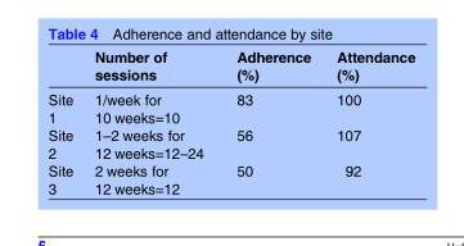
<table><thead><tr><td></td><td>Number of sessions</td><td>Adherence (%)</td><td>Attendance (%)</td></tr></thead><tbody><tr><td>Site 1</td><td>1/week for 10 weeks=10</td><td>83</td><td>100</td></tr><tr><td>Site 2</td><td>1–2 weeks for 12 weeks=12–24</td><td>56</td><td>107</td></tr><tr><td>Site 3</td><td>2 weeks for 12 weeks=12</td><td>50</td><td>92</td></tr></tbody></table>